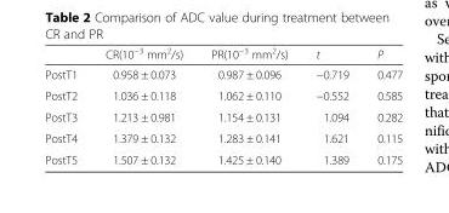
<table><thead><tr><td></td><td>CR(10<sup>−3</sup> mm<sup>2</sup>/s)</td><td>PR(10<sup>−3</sup> mm<sup>2</sup>/s)</td><td>t</td><td>P</td></tr></thead><tbody><tr><td>PostT1</td><td>0.958 ± 0.073</td><td>0.987 ± 0.096</td><td>−0.719</td><td>0.477</td></tr><tr><td>PostT2</td><td>1.036 ± 0.118</td><td>1.062 ± 0.110</td><td>−0.552</td><td>0.585</td></tr><tr><td>PostT3</td><td>1.213 ± 0.981</td><td>1.154 ± 0.131</td><td>1.094</td><td>0.282</td></tr><tr><td>PostT4</td><td>1.379 ± 0.132</td><td>1.283 ± 0.141</td><td>1.621</td><td>0.115</td></tr><tr><td>PostT5</td><td>1.507 ± 0.132</td><td>1.425 ± 0.140</td><td>1.389</td><td>0.175</td></tr></tbody></table>